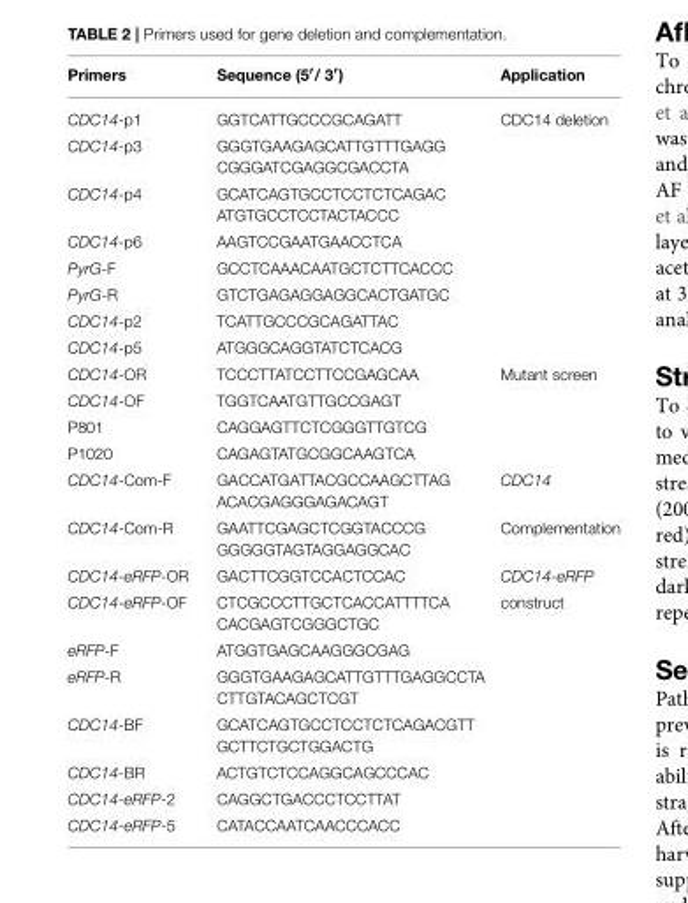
<table><thead><tr><td>Primers</td><td>Sequence (5′/ 3′)</td><td>Application</td></tr></thead><tbody><tr><td>CDC14-p1</td><td>GGTCATTGCCCGCAGATT</td><td>CDC14 deletion</td></tr><tr><td>CDC14-p3</td><td>GGGTGAAGAGCATTGTTTGAGG CGGGATCGAGGCGACCTA</td><td></td></tr><tr><td>CDC14-p4</td><td>GCATCAGTGCCTCCTCTCAGAC ATGTGCCTCCTACTACCC</td><td></td></tr><tr><td>CDC14-p6</td><td>AAGTCCGAATGAACCTCA</td><td></td></tr><tr><td>PyrG-F</td><td>GCCTCAAACAATGCTCTTCACCC</td><td></td></tr><tr><td>PyrG-R</td><td>GTCTGAGAGGAGGCACTGATGC</td><td></td></tr><tr><td>CDC14-p2</td><td>TCATTGCCCGCAGATTAC</td><td></td></tr><tr><td>CDC14-p5</td><td>ATGGGCAGGTATCTCACG</td><td></td></tr><tr><td>CDC14-OR</td><td>TCCCTTATCCTTCCGAGCAA</td><td>Mutant screen</td></tr><tr><td>CDC14-OF</td><td>TGGTCAATGTTGCCGAGT</td><td></td></tr><tr><td>P801</td><td>CAGGAGTTCTCGGGTTGTCG</td><td></td></tr><tr><td>P1020</td><td>CAGAGTATGCGGCAAGTCA</td><td></td></tr><tr><td>CDC14-Com-F</td><td>GACCATGATTACGCCAAGCTTAG ACACGAGGGAGACAGT</td><td>CDC14</td></tr><tr><td>CDC14-Com-R</td><td>GAATTCGAGCTCGGTACCCG GGGGGTAGTAGGAGGCAC</td><td>Complementation</td></tr><tr><td>CDC14-eRFP-OR</td><td>GACTTCGGTCCACTCCAC</td><td>CDC14-eRFP</td></tr><tr><td>CDC14-eRFP-OF</td><td>CTCGCCCTTGCTCACCATTTTCA CACGAGTCGGGCTGC</td><td>construct</td></tr><tr><td>eRFP-F</td><td>ATGGTGAGCAAGGGCGAG</td><td></td></tr><tr><td>eRFP-R</td><td>GGGTGAAGAGCATTGTTTGAGGCCTA CTTGTACAGCTCGT</td><td></td></tr><tr><td>CDC14-BF</td><td>GCATCAGTGCCTCCTCTCAGACGTT GCTTCTGCTGGACTG</td><td></td></tr><tr><td>CDC14-BR</td><td>ACTGTCTCCAGGCAGCCCAC</td><td></td></tr><tr><td>CDC14-eRFP-2</td><td>CAGGCTGACCCTCCTTAT</td><td></td></tr><tr><td>CDC14-eRFP-5</td><td>CATACCAATCAACCCACC</td><td></td></tr></tbody></table>